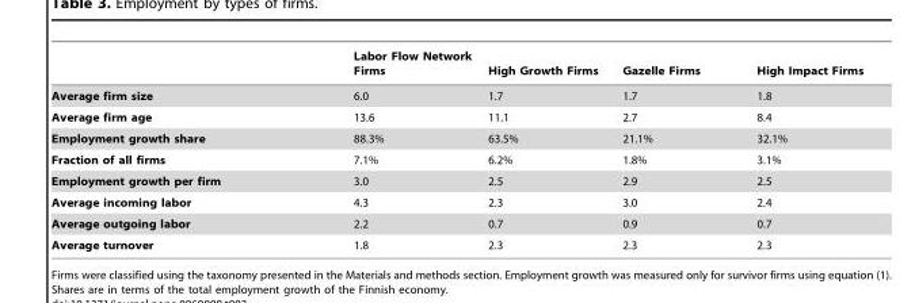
<table><thead><tr><td></td><td>Labor Flow Network Firms</td><td>High Growth Firms</td><td>Gazelle Firms</td><td>High Impact Firms</td></tr></thead><tbody><tr><td>Average firm size</td><td>6.0</td><td>1.7</td><td>1.7</td><td>1.8</td></tr><tr><td>Average firm age</td><td>13.6</td><td>11.1</td><td>2.7</td><td>8.4</td></tr><tr><td>Employment growth share</td><td>88.3%</td><td>63.5%</td><td>21.1%</td><td>32.1%</td></tr><tr><td>Fraction of all firms</td><td>7.1%</td><td>6.2%</td><td>1.8%</td><td>3.1%</td></tr><tr><td>Employment growth per firm</td><td>3.0</td><td>2.5</td><td>2.9</td><td>2.5</td></tr><tr><td>Average incoming labor</td><td>4.3</td><td>2.3</td><td>3.0</td><td>2.4</td></tr><tr><td>Average outgoing labor</td><td>2.2</td><td>0.7</td><td>0.9</td><td>0.7</td></tr><tr><td>Average turnover</td><td>1.8</td><td>2.3</td><td>2.3</td><td>2.3</td></tr></tbody></table>